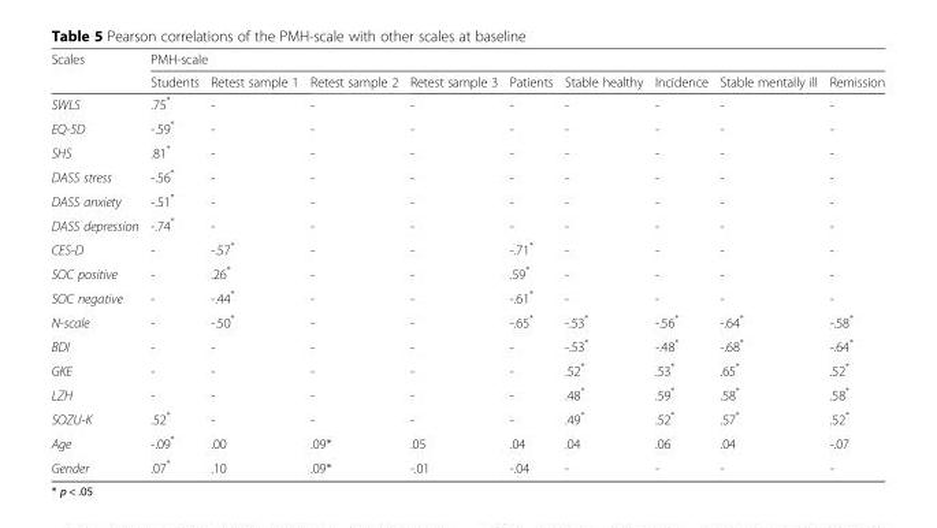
<table><thead><tr><td rowspan="2">Scales</td><td colspan="9">PMH-scale</td></tr><tr><td>Students</td><td>Retest sample 1</td><td>Retest sample 2</td><td>Retest sample 3</td><td>Patients</td><td>Stable healthy</td><td>Incidence</td><td>Stable mentally ill</td><td>Remission</td></tr></thead><tbody><tr><td>SWLS</td><td>.75*</td><td>-</td><td>-</td><td>-</td><td>-</td><td>-</td><td>-</td><td>-</td><td>-</td></tr><tr><td>EQ-5D</td><td>-.59*</td><td>-</td><td>-</td><td>-</td><td>-</td><td>-</td><td>-</td><td>-</td><td>-</td></tr><tr><td>SHS</td><td>.81*</td><td>-</td><td>-</td><td>-</td><td>-</td><td>-</td><td>-</td><td>-</td><td>-</td></tr><tr><td>DASS stress</td><td>-.56*</td><td>-</td><td>-</td><td>-</td><td>-</td><td>-</td><td>-</td><td>-</td><td>-</td></tr><tr><td>DASS anxiety</td><td>-.51*</td><td>-</td><td>-</td><td>-</td><td>-</td><td>-</td><td>-</td><td>-</td><td>-</td></tr><tr><td>DASS depression</td><td>-.74*</td><td>-</td><td>-</td><td>-</td><td>-</td><td>-</td><td>-</td><td>-</td><td>-</td></tr><tr><td>CES-D</td><td>-</td><td>-.57*</td><td>-</td><td>-</td><td>-.71*</td><td>-</td><td>-</td><td>-</td><td>-</td></tr><tr><td>SOC positive</td><td>-</td><td>.26*</td><td>-</td><td>-</td><td>.59*</td><td>-</td><td>-</td><td>-</td><td>-</td></tr><tr><td>SOC negative</td><td>-</td><td>-.44*</td><td>-</td><td>-</td><td>-.61*</td><td>-</td><td>-</td><td>-</td><td>-</td></tr><tr><td>N-scale</td><td>-</td><td>-.50*</td><td>-</td><td>-</td><td>-.65*</td><td>-.53*</td><td>-.56*</td><td>-.64*</td><td>-.58*</td></tr><tr><td>BDI</td><td>-</td><td>-</td><td>-</td><td>-</td><td>-</td><td>-.53*</td><td>-.48*</td><td>-.68*</td><td>-.64*</td></tr><tr><td>GKE</td><td>-</td><td>-</td><td>-</td><td>-</td><td>-</td><td>.52*</td><td>.53*</td><td>.65*</td><td>.52*</td></tr><tr><td>LZH</td><td>-</td><td>-</td><td>-</td><td>-</td><td>-</td><td>.48*</td><td>.59*</td><td>.58*</td><td>.58*</td></tr><tr><td>SOZU-K</td><td>.52*</td><td>-</td><td>-</td><td>-</td><td>-</td><td>.49*</td><td>.52*</td><td>.57*</td><td>.52*</td></tr><tr><td>Age</td><td>-.09*</td><td>.00</td><td>.09*</td><td>.05</td><td>.04</td><td>.04</td><td>.06</td><td>.04</td><td>-.07</td></tr><tr><td>Gender</td><td>.07*</td><td>.10</td><td>.09*</td><td>-.01</td><td>-.04</td><td>-</td><td>-</td><td>-</td><td>-</td></tr></tbody></table>